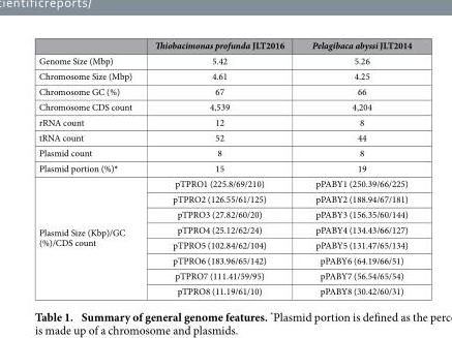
<table><thead><tr><td></td><td>Thiobacimonas profunda JLT2016</td><td>Pelagibaca abyssi JLT2014</td></tr></thead><tbody><tr><td>Genome Size (Mbp)</td><td>5.42</td><td>5.26</td></tr><tr><td>Chromosome Size (Mbp)</td><td>4.61</td><td>4.25</td></tr><tr><td>Chromosome GC (%)</td><td>67</td><td>66</td></tr><tr><td>Chromosome CDS count</td><td>4,539</td><td>4,204</td></tr><tr><td>rRNA count</td><td>12</td><td>8</td></tr><tr><td>tRNA count</td><td>52</td><td>44</td></tr><tr><td>Plasmid count</td><td>8</td><td>8</td></tr><tr><td>Plasmid portion (%)*</td><td>15</td><td>19</td></tr><tr><td rowspan="8">Plasmid Size (Kbp)/GC (%)/CDS count</td><td>pTPRO1 (225.8/69/210)</td><td>pPABY1 (250.39/66/225)</td></tr><tr><td>pTPRO2 (126.55/61/125)</td><td>pPABY2 (188.94/67/181)</td></tr><tr><td>pTPRO3 (27.82/60/20)</td><td>pPABY3 (156.35/60/144)</td></tr><tr><td>pTPRO4 (25.12/62/24)</td><td>pPABY4 (134.43/66/127)</td></tr><tr><td>pTPRO5 (102.84/62/104)</td><td>pPABY5 (131.47/65/134)</td></tr><tr><td>pTPRO6 (183.96/65/142)</td><td>pPABY6 (64.19/66/51)</td></tr><tr><td>pTPRO7 (111.41/59/95)</td><td>pPABY7 (56.54/65/54)</td></tr><tr><td>pTPRO8 (11.19/61/10)</td><td>pPABY8 (30.42/60/31)</td></tr></tbody></table>